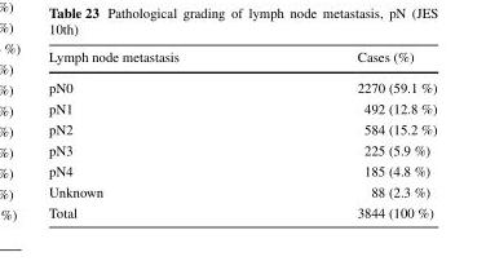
<table><thead><tr><td>Lymph node metastasis</td><td>Cases (%)</td></tr></thead><tbody><tr><td>pN0</td><td>2270 (59.1 %)</td></tr><tr><td>pN1</td><td>492 (12.8 %)</td></tr><tr><td>pN2</td><td>584 (15.2 %)</td></tr><tr><td>pN3</td><td>225 (5.9 %)</td></tr><tr><td>pN4</td><td>185 (4.8 %)</td></tr><tr><td>Unknown</td><td>88 (2.3 %)</td></tr><tr><td>Total</td><td>3844 (100 %)</td></tr></tbody></table>